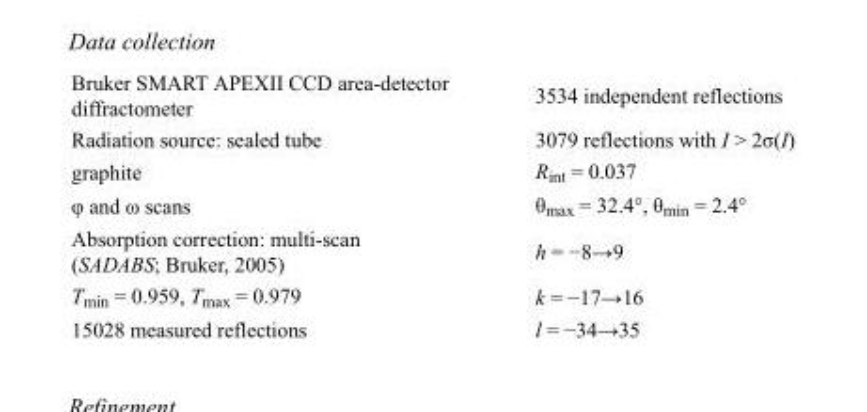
<table><tbody><tr><td>Bruker SMART APEXII CCD area-detector diffractometer</td><td>3534 independent reflections</td></tr><tr><td>Radiation source: sealed tube</td><td>3079 reflections with I &gt; 2σ(I)</td></tr><tr><td>graphite</td><td>R<sub>int</sub> = 0.037</td></tr><tr><td>φ and ω scans</td><td>θ<sub>max</sub> = 32.4°, θ<sub>min</sub> = 2.4°</td></tr><tr><td>Absorption correction: multi-scan (SADABS; Bruker, 2005)</td><td>h = −8→9</td></tr><tr><td>T<sub>min</sub> = 0.959, T<sub>max</sub> = 0.979</td><td>k = −17→16</td></tr><tr><td>15028 measured reflections</td><td>l = −34→35</td></tr></tbody></table>